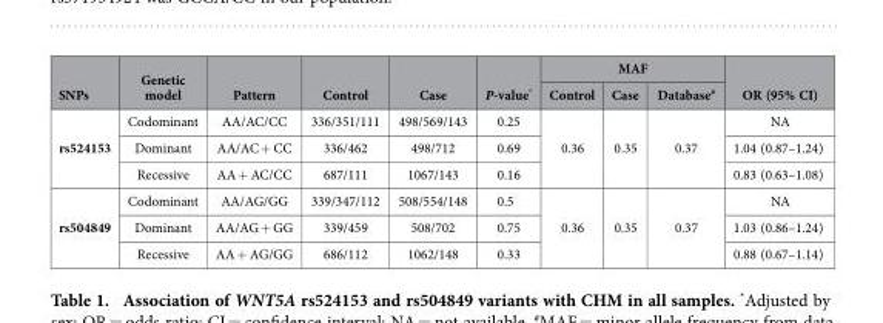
<table><thead><tr><td rowspan="2">SNPs</td><td rowspan="2">Genetic model</td><td rowspan="2">Pattern</td><td rowspan="2">Control</td><td rowspan="2">Case</td><td rowspan="2">P-value*</td><td colspan="3">MAF</td><td rowspan="2">OR (95% CI)</td></tr><tr><td>Control</td><td>Case</td><td>Database#</td></tr></thead><tbody><tr><td rowspan="3">rs524153</td><td>Codominant</td><td>AA/AC/CC</td><td>336/351/111</td><td>498/569/143</td><td>0.25</td><td rowspan="3">0.36</td><td rowspan="3">0.35</td><td rowspan="3">0.37</td><td>NA</td></tr><tr><td>Dominant</td><td>AA/AC + CC</td><td>336/462</td><td>498/712</td><td>0.69</td><td>1.04 (0.87–1.24)</td></tr><tr><td>Recessive</td><td>AA + AC/CC</td><td>687/111</td><td>1067/143</td><td>0.16</td><td>0.83 (0.63–1.08)</td></tr><tr><td rowspan="3">rs504849</td><td>Codominant</td><td>AA/AG/GG</td><td>339/347/112</td><td>508/554/148</td><td>0.5</td><td rowspan="3">0.36</td><td rowspan="3">0.35</td><td rowspan="3">0.37</td><td>NA</td></tr><tr><td>Dominant</td><td>AA/AG + GG</td><td>339/459</td><td>508/702</td><td>0.75</td><td>1.03 (0.86–1.24)</td></tr><tr><td>Recessive</td><td>AA + AG/GG</td><td>686/112</td><td>1062/148</td><td>0.33</td><td>0.88 (0.67–1.14)</td></tr></tbody></table>